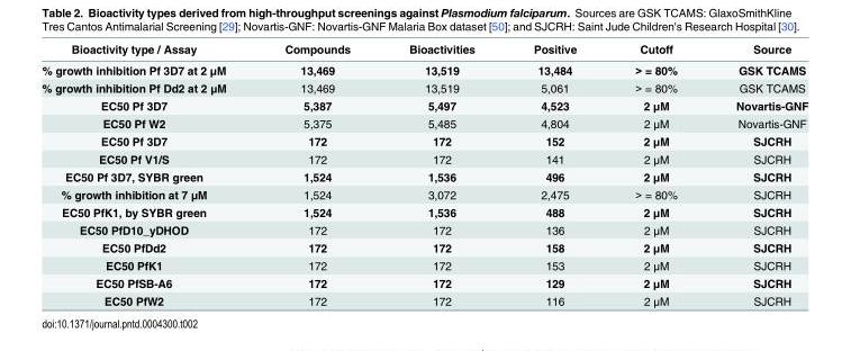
<table><thead><tr><td>Bioactivity type / Assay</td><td>Compounds</td><td>Bioactivities</td><td>Positive</td><td>Cutoff</td><td>Source</td></tr></thead><tbody><tr><td>% growth inhibition Pf 3D7 at 2 μM</td><td>13,469</td><td>13,519</td><td>13,484</td><td>&gt; = 80%</td><td>GSK TCAMS</td></tr><tr><td>% growth inhibition Pf Dd2 at 2 μM</td><td>13,469</td><td>13,519</td><td>5,061</td><td>&gt; = 80%</td><td>GSK TCAMS</td></tr><tr><td>EC50 Pf 3D7</td><td>5,387</td><td>5,497</td><td>4,523</td><td>2 μM</td><td>Novartis-GNF</td></tr><tr><td>EC50 Pf W2</td><td>5,375</td><td>5,485</td><td>4,804</td><td>2 μM</td><td>Novartis-GNF</td></tr><tr><td>EC50 Pf 3D7</td><td>172</td><td>172</td><td>152</td><td>2 μM</td><td>SJCRH</td></tr><tr><td>EC50 Pf V1/S</td><td>172</td><td>172</td><td>141</td><td>2 μM</td><td>SJCRH</td></tr><tr><td>EC50 Pf 3D7, SYBR green</td><td>1,524</td><td>1,536</td><td>496</td><td>2 μM</td><td>SJCRH</td></tr><tr><td>% growth inhibition at 7 μM</td><td>1,524</td><td>3,072</td><td>2,475</td><td>&gt; = 80%</td><td>SJCRH</td></tr><tr><td>EC50 PfK1, by SYBR green</td><td>1,524</td><td>1,536</td><td>488</td><td>2 μM</td><td>SJCRH</td></tr><tr><td>EC50 PfD10_yDHOD</td><td>172</td><td>172</td><td>136</td><td>2 μM</td><td>SJCRH</td></tr><tr><td>EC50 PfDd2</td><td>172</td><td>172</td><td>158</td><td>2 μM</td><td>SJCRH</td></tr><tr><td>EC50 PfK1</td><td>172</td><td>172</td><td>153</td><td>2 μM</td><td>SJCRH</td></tr><tr><td>EC50 PfSB-A6</td><td>172</td><td>172</td><td>129</td><td>2 μM</td><td>SJCRH</td></tr><tr><td>EC50 PfW2</td><td>172</td><td>172</td><td>116</td><td>2 μM</td><td>SJCRH</td></tr></tbody></table>